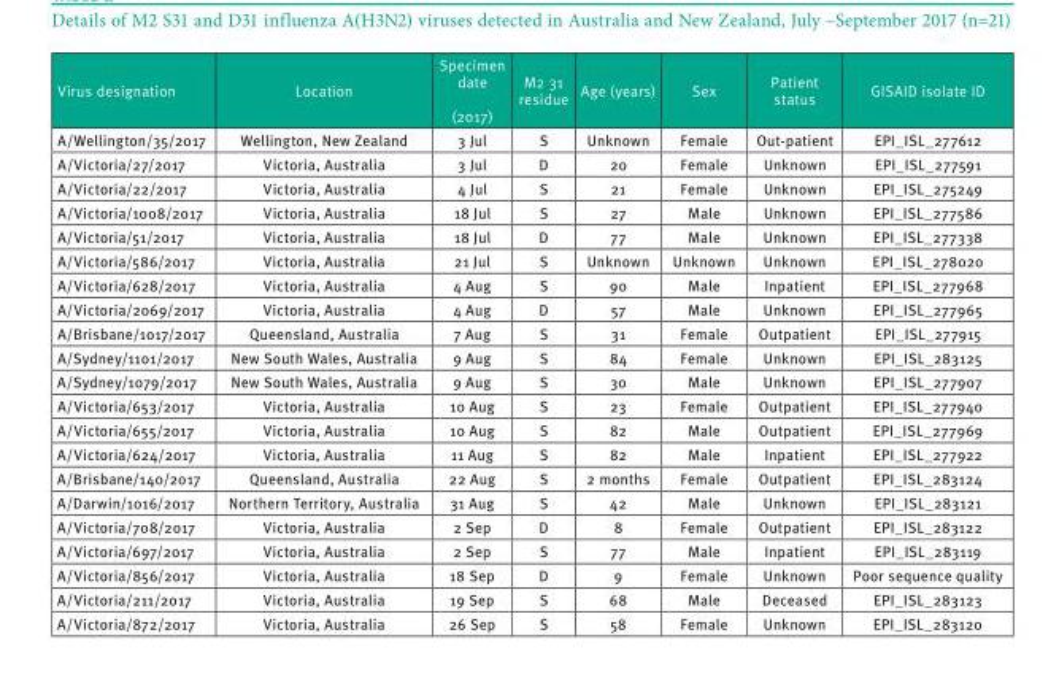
<table><thead><tr><td>Virus designation</td><td>Location</td><td>Specimen date (2017)</td><td>M2 31 residue</td><td>Age (years)</td><td>Sex</td><td>Patient status</td><td>GISAID isolate ID</td></tr></thead><tbody><tr><td>A/Wellington/35/2017</td><td>Wellington, New Zealand</td><td>3 Jul</td><td>S</td><td>Unknown</td><td>Female</td><td>Out-patient</td><td>EPI_ISL_277612</td></tr><tr><td>A/Victoria/27/2017</td><td>Victoria, Australia</td><td>3 Jul</td><td>D</td><td>20</td><td>Female</td><td>Unknown</td><td>EPI_ISL_277591</td></tr><tr><td>A/Victoria/22/2017</td><td>Victoria, Australia</td><td>4 Jul</td><td>S</td><td>21</td><td>Female</td><td>Unknown</td><td>EPI_ISL_275249</td></tr><tr><td>A/Victoria/1008/2017</td><td>Victoria, Australia</td><td>18 Jul</td><td>S</td><td>27</td><td>Male</td><td>Unknown</td><td>EPI_ISL_277586</td></tr><tr><td>A/Victoria/51/2017</td><td>Victoria, Australia</td><td>18 Jul</td><td>D</td><td>77</td><td>Male</td><td>Unknown</td><td>EPI_ISL_277338</td></tr><tr><td>A/Victoria/586/2017</td><td>Victoria, Australia</td><td>21 Jul</td><td>S</td><td>Unknown</td><td>Unknown</td><td>Unknown</td><td>EPI_ISL_278020</td></tr><tr><td>A/Victoria/628/2017</td><td>Victoria, Australia</td><td>4 Aug</td><td>S</td><td>90</td><td>Male</td><td>Inpatient</td><td>EPI_ISL_277968</td></tr><tr><td>A/Victoria/2069/2017</td><td>Victoria, Australia</td><td>4 Aug</td><td>D</td><td>57</td><td>Male</td><td>Unknown</td><td>EPI_ISL_277965</td></tr><tr><td>A/Brisbane/1017/2017</td><td>Queensland, Australia</td><td>7 Aug</td><td>S</td><td>31</td><td>Female</td><td>Outpatient</td><td>EPI_ISL_277915</td></tr><tr><td>A/Sydney/1101/2017</td><td>New South Wales, Australia</td><td>9 Aug</td><td>S</td><td>84</td><td>Female</td><td>Unknown</td><td>EPI_ISL_283125</td></tr><tr><td>A/Sydney/1079/2017</td><td>New South Wales, Australia</td><td>9 Aug</td><td>S</td><td>30</td><td>Male</td><td>Unknown</td><td>EPI_ISL_277907</td></tr><tr><td>A/Victoria/653/2017</td><td>Victoria, Australia</td><td>10 Aug</td><td>S</td><td>23</td><td>Female</td><td>Outpatient</td><td>EPI_ISL_277940</td></tr><tr><td>A/Victoria/655/2017</td><td>Victoria, Australia</td><td>10 Aug</td><td>S</td><td>82</td><td>Male</td><td>Outpatient</td><td>EPI_ISL_277969</td></tr><tr><td>A/Victoria/624/2017</td><td>Victoria, Australia</td><td>11 Aug</td><td>S</td><td>82</td><td>Male</td><td>Inpatient</td><td>EPI_ISL_277922</td></tr><tr><td>A/Brisbane/140/2017</td><td>Queensland, Australia</td><td>22 Aug</td><td>S</td><td>2 months</td><td>Female</td><td>Outpatient</td><td>EPI_ISL_283124</td></tr><tr><td>A/Darwin/1016/2017</td><td>Northern Territory, Australia</td><td>31 Aug</td><td>S</td><td>42</td><td>Male</td><td>Unknown</td><td>EPI_ISL_283121</td></tr><tr><td>A/Victoria/708/2017</td><td>Victoria, Australia</td><td>2 Sep</td><td>D</td><td>8</td><td>Female</td><td>Outpatient</td><td>EPI_ISL_283122</td></tr><tr><td>A/Victoria/697/2017</td><td>Victoria, Australia</td><td>2 Sep</td><td>S</td><td>77</td><td>Male</td><td>Inpatient</td><td>EPI_ISL_283119</td></tr><tr><td>A/Victoria/856/2017</td><td>Victoria, Australia</td><td>18 Sep</td><td>D</td><td>9</td><td>Female</td><td>Unknown</td><td>Poor sequence quality</td></tr><tr><td>A/Victoria/211/2017</td><td>Victoria, Australia</td><td>19 Sep</td><td>S</td><td>68</td><td>Male</td><td>Deceased</td><td>EPI_ISL_283123</td></tr><tr><td>A/Victoria/872/2017</td><td>Victoria, Australia</td><td>26 Sep</td><td>S</td><td>58</td><td>Female</td><td>Unknown</td><td>EPI_ISL_283120</td></tr></tbody></table>